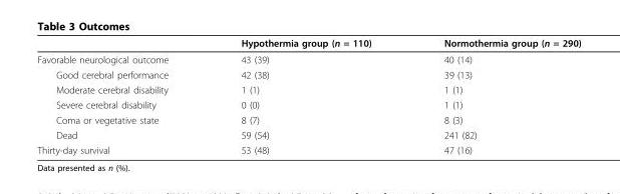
<table><thead><tr><td></td><td>Hypothermia group (n = 110)</td><td>Normothermia group (n = 290)</td></tr></thead><tbody><tr><td>Favorable neurological outcome</td><td>43 (39)</td><td>40 (14)</td></tr><tr><td>Good cerebral performance</td><td>42 (38)</td><td>39 (13)</td></tr><tr><td>Moderate cerebral disability</td><td>1 (1)</td><td>1 (1)</td></tr><tr><td>Severe cerebral disability</td><td>0 (0)</td><td>1 (1)</td></tr><tr><td>Coma or vegetative state</td><td>8 (7)</td><td>8 (3)</td></tr><tr><td>Dead</td><td>59 (54)</td><td>241 (82)</td></tr><tr><td>Thirty-day survival</td><td>53 (48)</td><td>47 (16)</td></tr></tbody></table>